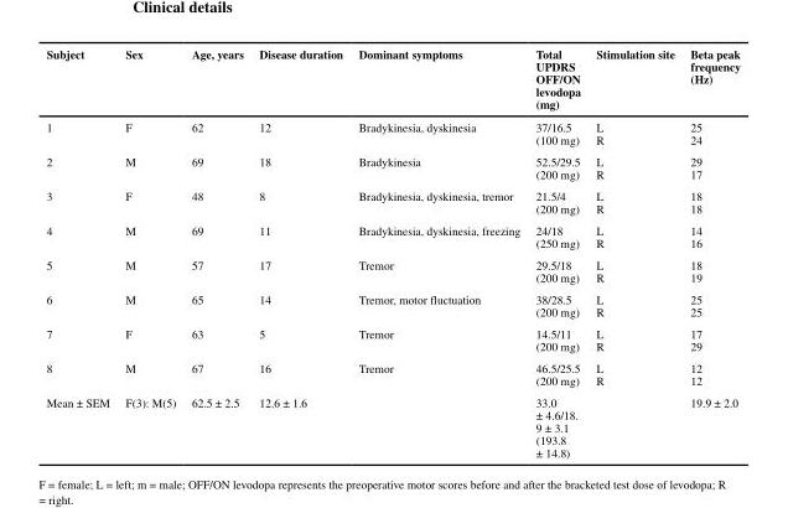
<table><thead><tr><td>Subject</td><td>Sex</td><td>Age, years</td><td>Disease duration</td><td>Dominant symptoms</td><td>Total UPDRS OFF/ON levodopa (mg)</td><td>Stimulation site</td><td>Beta peak frequency (Hz)</td></tr></thead><tbody><tr><td>1</td><td>F</td><td>62</td><td>12</td><td>Bradykinesia, dyskinesia</td><td>37/16.5 (100 mg)</td><td>L R</td><td>25 24</td></tr><tr><td>2</td><td>M</td><td>69</td><td>18</td><td>Bradykinesia</td><td>52.5/29.5 (200 mg)</td><td>L R</td><td>29 17</td></tr><tr><td>3</td><td>F</td><td>48</td><td>8</td><td>Bradykinesia, dyskinesia, tremor</td><td>21.5/4 (200 mg)</td><td>L R</td><td>18 18</td></tr><tr><td>4</td><td>M</td><td>69</td><td>11</td><td>Bradykinesia, dyskinesia, freezing</td><td>24/18 (250 mg)</td><td>L R</td><td>14 16</td></tr><tr><td>5</td><td>M</td><td>57</td><td>17</td><td>Tremor</td><td>29.5/18 (200 mg)</td><td>L R</td><td>18 19</td></tr><tr><td>6</td><td>M</td><td>65</td><td>14</td><td>Tremor, motor fluctuation</td><td>38/28.5 (200 mg)</td><td>L R</td><td>25 25</td></tr><tr><td>7</td><td>F</td><td>63</td><td>5</td><td>Tremor</td><td>14.5/11 (200 mg)</td><td>L R</td><td>17 29</td></tr><tr><td>8</td><td>M</td><td>67</td><td>16</td><td>Tremor</td><td>46.5/25.5 (200 mg)</td><td>L R</td><td>12 12</td></tr><tr><td>Mean ± SEM</td><td>F(3): M(5)</td><td>62.5 ± 2.5</td><td>12.6 ± 1.6</td><td></td><td>33.0 ± 4.6/18. 9 ± 3.1 (193.8 ± 14.8)</td><td></td><td>19.9 ± 2.0</td></tr></tbody></table>